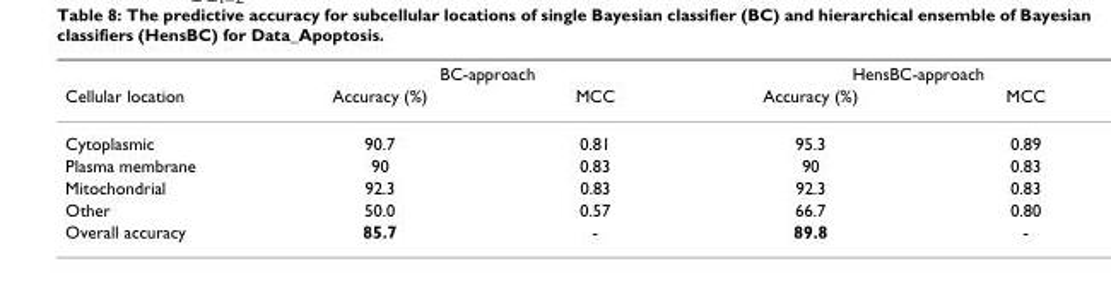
<table><thead><tr><td rowspan="2">Cellular location</td><td colspan="2">BC-approach</td><td colspan="2">HensBC-approach</td></tr><tr><td>Accuracy (%)</td><td>MCC</td><td>Accuracy (%)</td><td>MCC</td></tr></thead><tbody><tr><td>Cytoplasmic</td><td>90.7</td><td>0.81</td><td>95.3</td><td>0.89</td></tr><tr><td>Plasma membrane</td><td>90</td><td>0.83</td><td>90</td><td>0.83</td></tr><tr><td>Mitochondrial</td><td>92.3</td><td>0.83</td><td>92.3</td><td>0.83</td></tr><tr><td>Other</td><td>50.0</td><td>0.57</td><td>66.7</td><td>0.80</td></tr><tr><td>Overall accuracy</td><td>85.7</td><td>-</td><td>89.8</td><td>-</td></tr></tbody></table>